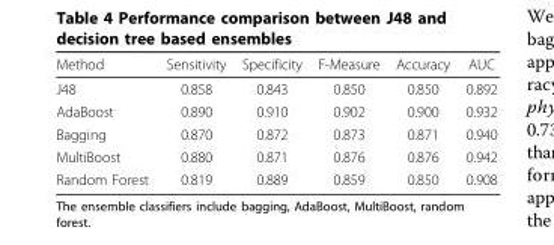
<table><thead><tr><td>Method</td><td>Sensitivity</td><td>Specificity</td><td>F-Measure</td><td>Accuracy</td><td>AUC</td></tr></thead><tbody><tr><td>J48</td><td>0.858</td><td>0.843</td><td>0.850</td><td>0.850</td><td>0.892</td></tr><tr><td>AdaBoost</td><td>0.890</td><td>0.910</td><td>0.902</td><td>0.900</td><td>0.932</td></tr><tr><td>Bagging</td><td>0.870</td><td>0.872</td><td>0.873</td><td>0.871</td><td>0.940</td></tr><tr><td>MultiBoost</td><td>0.880</td><td>0.871</td><td>0.876</td><td>0.876</td><td>0.942</td></tr><tr><td>Random Forest</td><td>0.819</td><td>0.889</td><td>0.859</td><td>0.850</td><td>0.908</td></tr></tbody></table>